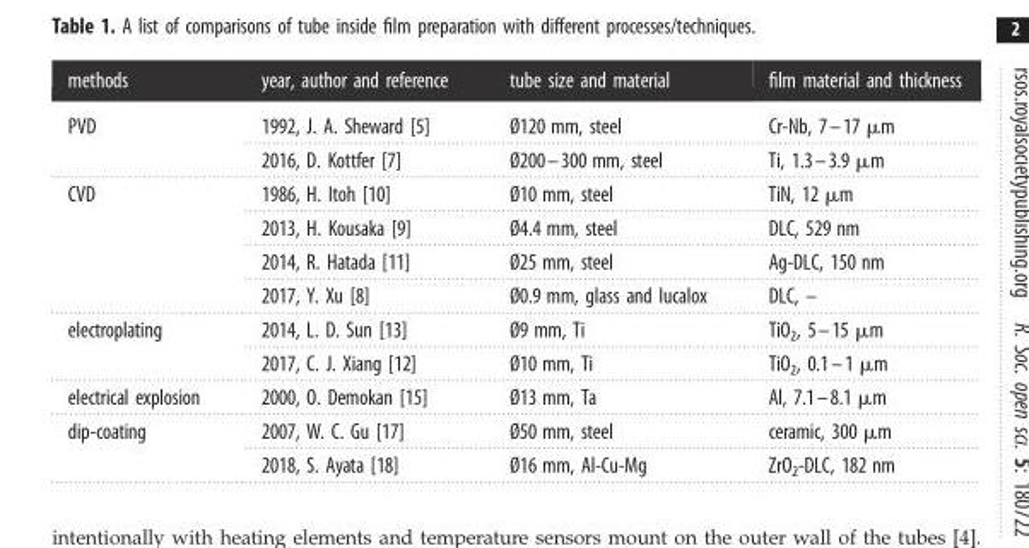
<table><thead><tr><td>methods</td><td>year, author and reference</td><td>tube size and material</td><td>film material and thickness</td></tr></thead><tbody><tr><td rowspan="2">PVD</td><td>1992, J. A. Sheward [5]</td><td>Ø120 mm, steel</td><td>Cr-Nb, 7–17 µm</td></tr><tr><td>2016, D. Kottfer [7]</td><td>Ø200–300 mm, steel</td><td>Ti, 1.3–3.9 µm</td></tr><tr><td rowspan="4">CVD</td><td>1986, H. Itoh [10]</td><td>Ø10 mm, steel</td><td>TiN, 12 µm</td></tr><tr><td>2013, H. Kousaka [9]</td><td>Ø4.4 mm, steel</td><td>DLC, 529 nm</td></tr><tr><td>2014, R. Hatada [11]</td><td>Ø25 mm, steel</td><td>Ag-DLC, 150 nm</td></tr><tr><td>2017, Y. Xu [8]</td><td>Ø0.9 mm, glass and lucalox</td><td>DLC, –</td></tr><tr><td rowspan="2">electroplating</td><td>2014, L. D. Sun [13]</td><td>Ø9 mm, Ti</td><td>TiO<sub>2</sub>, 5–15 µm</td></tr><tr><td>2017, C. J. Xiang [12]</td><td>Ø10 mm, Ti</td><td>TiO<sub>2</sub>, 0.1–1 µm</td></tr><tr><td>electrical explosion</td><td>2000, O. Demokan [15]</td><td>Ø13 mm, Ta</td><td>Al, 7.1–8.1 µm</td></tr><tr><td rowspan="2">dip-coating</td><td>2007, W. C. Gu [17]</td><td>Ø50 mm, steel</td><td>ceramic, 300 µm</td></tr><tr><td>2018, S. Ayata [18]</td><td>Ø16 mm, Al-Cu-Mg</td><td>ZrO<sub>2</sub>-DLC, 182 nm</td></tr></tbody></table>